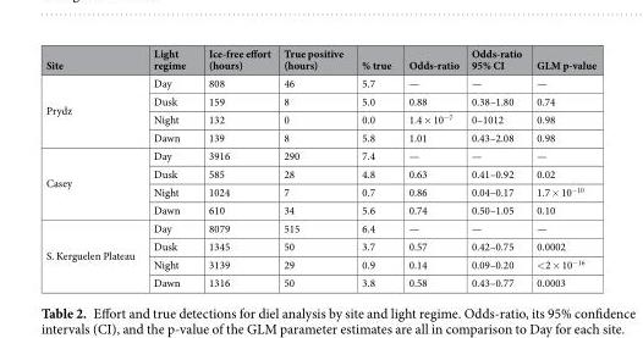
<table><thead><tr><td>Site</td><td>Light regime</td><td>Ice-free effort (hours)</td><td>True positive (hours)</td><td>% true</td><td>Odds-ratio</td><td>Odds-ratio 95% CI</td><td>GLM p-value</td></tr></thead><tbody><tr><td rowspan="4">Prydz</td><td>Day</td><td>808</td><td>46</td><td>5.7</td><td>—</td><td>—</td><td>—</td></tr><tr><td>Dusk</td><td>159</td><td>8</td><td>5.0</td><td>0.88</td><td>0.38–1.80</td><td>0.74</td></tr><tr><td>Night</td><td>132</td><td>0</td><td>0.0</td><td>1.4 × 10<sup>−7</sup></td><td>0–1012</td><td>0.98</td></tr><tr><td>Dawn</td><td>139</td><td>8</td><td>5.8</td><td>1.01</td><td>0.43–2.08</td><td>0.98</td></tr><tr><td rowspan="4">Casey</td><td>Day</td><td>3916</td><td>290</td><td>7.4</td><td>—</td><td>—</td><td>—</td></tr><tr><td>Dusk</td><td>585</td><td>28</td><td>4.8</td><td>0.63</td><td>0.41–0.92</td><td>0.02</td></tr><tr><td>Night</td><td>1024</td><td>7</td><td>0.7</td><td>0.86</td><td>0.04–0.17</td><td>1.7 × 10<sup>−10</sup></td></tr><tr><td>Dawn</td><td>610</td><td>34</td><td>5.6</td><td>0.74</td><td>0.50–1.05</td><td>0.10</td></tr><tr><td rowspan="4">S. Kerguelen Plateau</td><td>Day</td><td>8079</td><td>515</td><td>6.4</td><td>—</td><td>—</td><td>—</td></tr><tr><td>Dusk</td><td>1345</td><td>50</td><td>3.7</td><td>0.57</td><td>0.42–0.75</td><td>0.0002</td></tr><tr><td>Night</td><td>3139</td><td>29</td><td>0.9</td><td>0.14</td><td>0.09–0.20</td><td>&lt;2 × 10<sup>−16</sup></td></tr><tr><td>Dawn</td><td>1316</td><td>50</td><td>3.8</td><td>0.58</td><td>0.43–0.77</td><td>0.0003</td></tr></tbody></table>